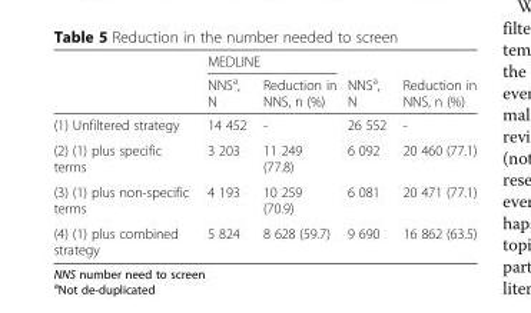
<table><thead><tr><td rowspan="2"></td><td colspan="2">MEDLINE</td><td rowspan="2">NNS<sup>a</sup>, N</td><td rowspan="2">Reduction in NNS, n (%)</td></tr><tr><td>NNS<sup>a</sup>, N</td><td>Reduction in NNS, n (%)</td></tr></thead><tbody><tr><td>(1) Unfiltered strategy</td><td>14 452</td><td>-</td><td>26 552</td><td>-</td></tr><tr><td>(2) (1) plus specific terms</td><td>3 203</td><td>11 249 (77.8)</td><td>6 092</td><td>20 460 (77.1)</td></tr><tr><td>(3) (1) plus non-specific terms</td><td>4 193</td><td>10 259 (70.9)</td><td>6 081</td><td>20 471 (77.1)</td></tr><tr><td>(4) (1) plus combined strategy</td><td>5 824</td><td>8 628 (59.7)</td><td>9 690</td><td>16 862 (63.5)</td></tr></tbody></table>